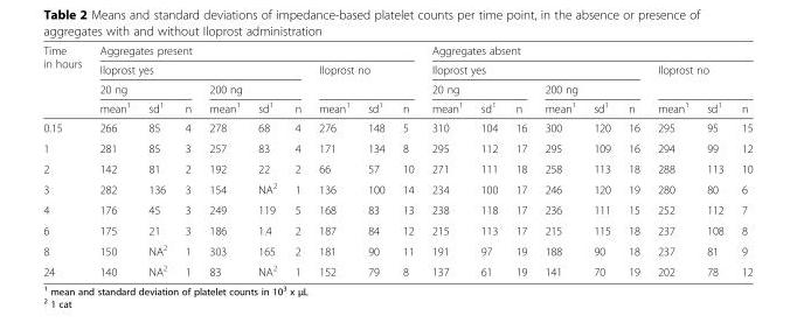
<table><thead><tr><td rowspan="4">Time in hours</td><td colspan="9">Aggregates present</td><td colspan="9">Aggregates absent</td></tr><tr><td colspan="6">Iloprost yes</td><td rowspan="2" colspan="3">Iloprost no</td><td colspan="6">Iloprost yes</td><td rowspan="2" colspan="3">Iloprost no</td></tr><tr><td colspan="3">20 ng</td><td colspan="3">200 ng</td><td colspan="3">20 ng</td><td colspan="3">200 ng</td></tr><tr><td>mean<sup>1</sup></td><td>sd<sup>1</sup></td><td>n</td><td>mean<sup>1</sup></td><td>sd<sup>1</sup></td><td>n</td><td>mean<sup>1</sup></td><td>sd<sup>1</sup></td><td>n</td><td>mean<sup>1</sup></td><td>sd<sup>1</sup></td><td>n</td><td>mean<sup>1</sup></td><td>sd<sup>1</sup></td><td>n</td><td>mean<sup>1</sup></td><td>sd<sup>1</sup></td><td>n</td></tr></thead><tbody><tr><td>0.15</td><td>266</td><td>85</td><td>4</td><td>278</td><td>68</td><td>4</td><td>276</td><td>148</td><td>5</td><td>310</td><td>104</td><td>16</td><td>300</td><td>120</td><td>16</td><td>295</td><td>95</td><td>15</td></tr><tr><td>1</td><td>281</td><td>85</td><td>3</td><td>257</td><td>83</td><td>4</td><td>171</td><td>134</td><td>8</td><td>295</td><td>112</td><td>17</td><td>295</td><td>109</td><td>16</td><td>294</td><td>99</td><td>12</td></tr><tr><td>2</td><td>142</td><td>81</td><td>2</td><td>192</td><td>22</td><td>2</td><td>66</td><td>57</td><td>10</td><td>271</td><td>111</td><td>18</td><td>258</td><td>113</td><td>18</td><td>288</td><td>113</td><td>10</td></tr><tr><td>3</td><td>282</td><td>136</td><td>3</td><td>154</td><td>NA<sup>2</sup></td><td>1</td><td>136</td><td>100</td><td>14</td><td>234</td><td>100</td><td>17</td><td>246</td><td>120</td><td>19</td><td>280</td><td>80</td><td>6</td></tr><tr><td>4</td><td>176</td><td>45</td><td>3</td><td>249</td><td>119</td><td>5</td><td>168</td><td>83</td><td>13</td><td>238</td><td>118</td><td>17</td><td>236</td><td>111</td><td>15</td><td>252</td><td>112</td><td>7</td></tr><tr><td>6</td><td>175</td><td>21</td><td>3</td><td>186</td><td>1.4</td><td>2</td><td>187</td><td>84</td><td>12</td><td>215</td><td>113</td><td>17</td><td>215</td><td>115</td><td>18</td><td>237</td><td>108</td><td>8</td></tr><tr><td>8</td><td>150</td><td>NA<sup>2</sup></td><td>1</td><td>303</td><td>165</td><td>2</td><td>181</td><td>90</td><td>11</td><td>191</td><td>97</td><td>19</td><td>188</td><td>90</td><td>18</td><td>237</td><td>81</td><td>9</td></tr><tr><td>24</td><td>140</td><td>NA<sup>2</sup></td><td>1</td><td>83</td><td>NA<sup>2</sup></td><td>1</td><td>152</td><td>79</td><td>8</td><td>137</td><td>61</td><td>19</td><td>141</td><td>70</td><td>19</td><td>202</td><td>78</td><td>12</td></tr></tbody></table>